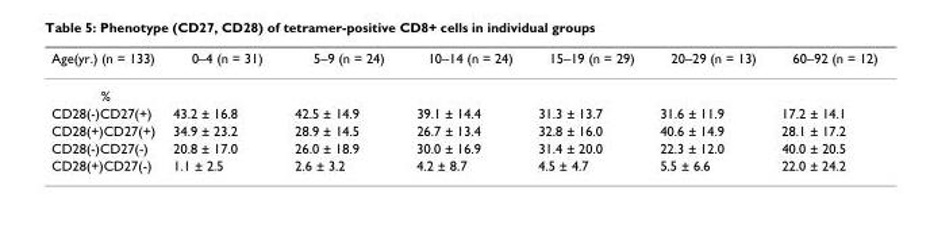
<table><thead><tr><td>Age(yr.) (n = 133)</td><td>0–4 (n = 31)</td><td>5–9 (n = 24)</td><td>10–14 (n = 24)</td><td>15–19 (n = 29)</td><td>20–29 (n = 13)</td><td>60–92 (n = 12)</td></tr></thead><tbody><tr><td colspan="7">%</td></tr><tr><td>CD28(-)CD27(+)</td><td>43.2 ± 16.8</td><td>42.5 ± 14.9</td><td>39.1 ± 14.4</td><td>31.3 ± 13.7</td><td>31.6 ± 11.9</td><td>17.2 ± 14.1</td></tr><tr><td>CD28(+)CD27(+)</td><td>34.9 ± 23.2</td><td>28.9 ± 14.5</td><td>26.7 ± 13.4</td><td>32.8 ± 16.0</td><td>40.6 ± 14.9</td><td>28.1 ± 17.2</td></tr><tr><td>CD28(-)CD27(-)</td><td>20.8 ± 17.0</td><td>26.0 ± 18.9</td><td>30.0 ± 16.9</td><td>31.4 ± 20.0</td><td>22.3 ± 12.0</td><td>40.0 ± 20.5</td></tr><tr><td>CD28(+)CD27(-)</td><td>1.1 ± 2.5</td><td>2.6 ± 3.2</td><td>4.2 ± 8.7</td><td>4.5 ± 4.7</td><td>5.5 ± 6.6</td><td>22.0 ± 24.2</td></tr></tbody></table>